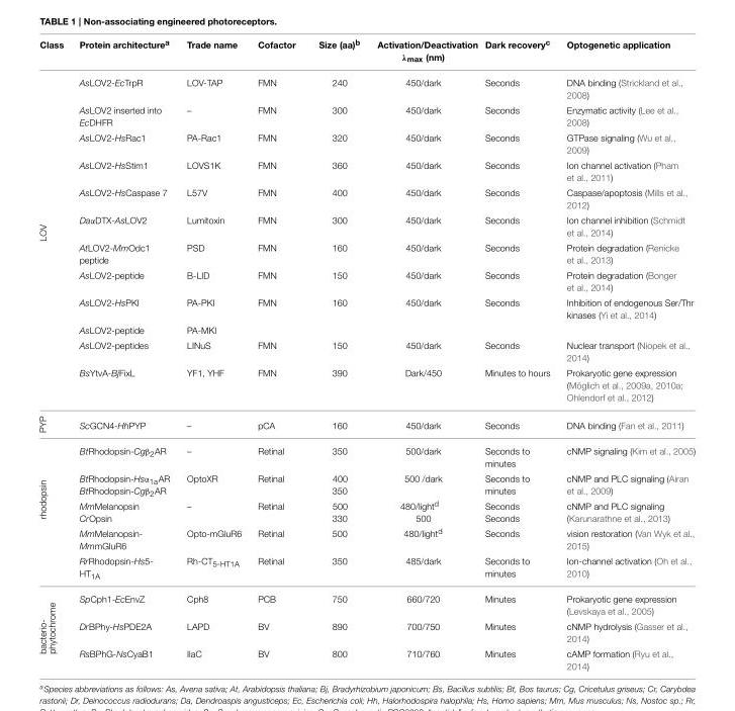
<table><thead><tr><td>Class</td><td>Protein architecture<sup>a</sup></td><td>Trade name</td><td>Cofactor</td><td>Size (aa)<sup>b</sup></td><td>Activation/Deactivation λ<sub>max</sub> (nm)</td><td>Dark recovery<sup>c</sup></td><td>Optogenetic application</td></tr></thead><tbody><tr><td rowspan="12">LOV</td><td>AsLOV2-EcTrpR</td><td>LOV-TAP</td><td>FMN</td><td>240</td><td>450/dark</td><td>Seconds</td><td>DNA binding (Strickland et al., 2008)</td></tr><tr><td>AsLOV2 inserted into EcDHFR</td><td>–</td><td>FMN</td><td>300</td><td>450/dark</td><td>Seconds</td><td>Enzymatic activity (Lee et al., 2008)</td></tr><tr><td>AsLOV2-HsRac1</td><td>PA-Rac1</td><td>FMN</td><td>320</td><td>450/dark</td><td>Seconds</td><td>GTPase signaling (Wu et al., 2009)</td></tr><tr><td>AsLOV2-HsStim1</td><td>LOVS1K</td><td>FMN</td><td>360</td><td>450/dark</td><td>Seconds</td><td>Ion channel activation (Pham et al., 2011)</td></tr><tr><td>AsLOV2-HsCaspase 7</td><td>L57V</td><td>FMN</td><td>400</td><td>450/dark</td><td>Seconds</td><td>Caspase/apoptosis (Mills et al., 2012)</td></tr><tr><td>DaαDTX-AsLOV2</td><td>Lumitoxin</td><td>FMN</td><td>300</td><td>450/dark</td><td>Seconds</td><td>Ion channel inhibition (Schmidt et al., 2014)</td></tr><tr><td>AtLOV2-MmOdc1 peptide</td><td>PSD</td><td>FMN</td><td>160</td><td>450/dark</td><td>Seconds</td><td>Protein degradation (Renicke et al., 2013)</td></tr><tr><td>AsLOV2-peptide</td><td>B-LID</td><td>FMN</td><td>150</td><td>450/dark</td><td>Seconds</td><td>Protein degradation (Bonger et al., 2014)</td></tr><tr><td>AsLOV2-HsPKI</td><td>PA-PKI</td><td>FMN</td><td>160</td><td>450/dark</td><td>Seconds</td><td>Inhibition of endogenous Ser/Thr kinases (Yi et al., 2014)</td></tr><tr><td>AsLOV2-peptide</td><td>PA-MKI</td><td></td><td></td><td></td><td></td><td></td></tr><tr><td>AsLOV2-peptides</td><td>LINuS</td><td>FMN</td><td>150</td><td>450/dark</td><td>Seconds</td><td>Nuclear transport (Niopek et al., 2014)</td></tr><tr><td>BsYtvA-BjFixL</td><td>YF1, YHF</td><td>FMN</td><td>390</td><td>Dark/450</td><td>Minutes to hours</td><td>Prokaryotic gene expression (Möglich et al., 2009a, 2010a; Ohlendorf et al., 2012)</td></tr><tr><td>PYP</td><td>ScGCN4-HhPYP</td><td>–</td><td>pCA</td><td>160</td><td>450/dark</td><td>Seconds</td><td>DNA binding (Fan et al., 2011)</td></tr><tr><td rowspan="5">rhodopsin</td><td>BtRhodopsin-Cgβ<sub>2</sub>AR</td><td>–</td><td>Retinal</td><td>350</td><td>500/dark</td><td>Seconds to minutes</td><td>cNMP signaling (Kim et al., 2005)</td></tr><tr><td>BtRhodopsin-Hsα<sub>1a</sub>AR BtRhodopsin-Cgβ<sub>2</sub>AR</td><td>OptoXR</td><td>Retinal</td><td>400 350</td><td>500 /dark</td><td>Seconds to minutes</td><td>cNMP and PLC signaling (Airan et al., 2009)</td></tr><tr><td>MmMelanopsin CrOpsin</td><td>–</td><td>Retinal</td><td>500 330</td><td>480/light<sup>d</sup> 500</td><td>Seconds Seconds</td><td>cNMP and PLC signaling (Karunarathne et al., 2013)</td></tr><tr><td>MmMelanopsin- MmmGluR6</td><td>Opto-mGluR6</td><td>Retinal</td><td>500</td><td>480/light<sup>d</sup></td><td>Seconds</td><td>vision restoration (Van Wyk et al., 2015)</td></tr><tr><td>RrRhodopsin-Hs5- HT<sub>1A</sub></td><td>Rh-CT<sub>5-HT1A</sub></td><td>Retinal</td><td>350</td><td>485/dark</td><td>Seconds to minutes</td><td>Ion-channel activation (Oh et al., 2010)</td></tr><tr><td rowspan="3">bacterio- phytochrome</td><td>SpCph1-EcEnvZ</td><td>Cph8</td><td>PCB</td><td>750</td><td>660/720</td><td>Minutes</td><td>Prokaryotic gene expression (Levskaya et al., 2005)</td></tr><tr><td>DrBPhy-HsPDE2A</td><td>LAPD</td><td>BV</td><td>890</td><td>700/750</td><td>Minutes</td><td>cNMP hydrolysis (Gasser et al., 2014)</td></tr><tr><td>RsBPhG-NsCyaB1</td><td>IlaC</td><td>BV</td><td>800</td><td>710/760</td><td>Minutes</td><td>cAMP formation (Ryu et al., 2014)</td></tr></tbody></table>